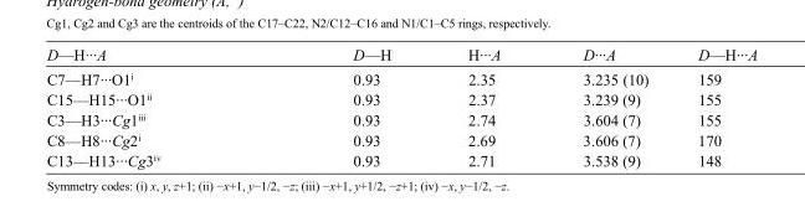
<table><tbody><tr><td>D—H···A</td><td>D—H</td><td>H···A</td><td>D···A</td><td>D—H···A</td></tr><tr><td>C7—H7···O1<sup>i</sup></td><td>0.93</td><td>2.35</td><td>3.235 (10)</td><td>159</td></tr><tr><td>C15—H15···O1<sup>ii</sup></td><td>0.93</td><td>2.37</td><td>3.239 (9)</td><td>155</td></tr><tr><td>C3—H3···Cg1<sup>iii</sup></td><td>0.93</td><td>2.74</td><td>3.604 (7)</td><td>155</td></tr><tr><td>C8—H8···Cg2<sup>i</sup></td><td>0.93</td><td>2.69</td><td>3.606 (7)</td><td>170</td></tr><tr><td>C13—H13···Cg3<sup>iv</sup></td><td>0.93</td><td>2.71</td><td>3.538 (9)</td><td>148</td></tr></tbody></table>